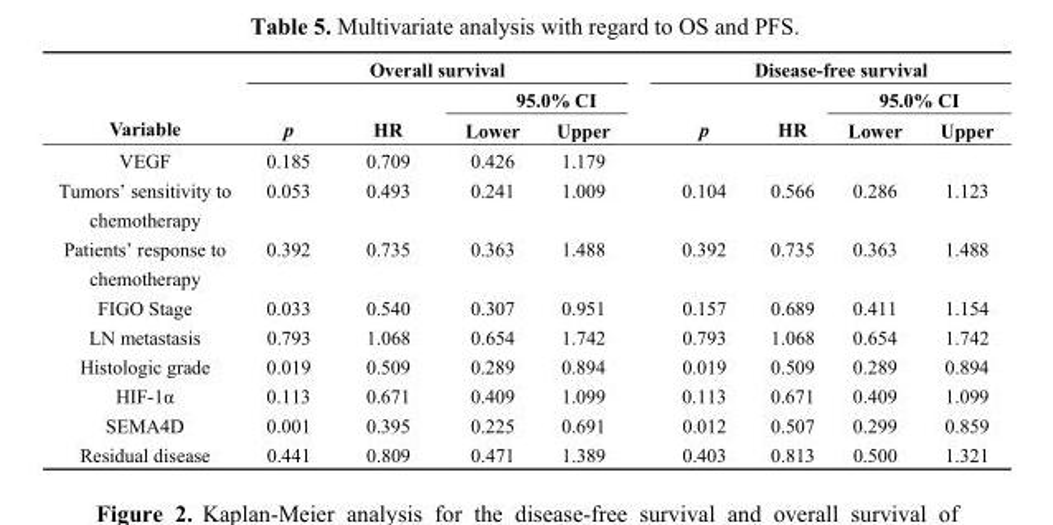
<table><thead><tr><td rowspan="3">Variable</td><td colspan="4">Overall survival</td><td colspan="4">Disease-free survival</td></tr><tr><td rowspan="2">p</td><td rowspan="2">HR</td><td colspan="2">95.0% CI</td><td rowspan="2">p</td><td rowspan="2">HR</td><td colspan="2">95.0% CI</td></tr><tr><td>Lower</td><td>Upper</td><td>Lower</td><td>Upper</td></tr></thead><tbody><tr><td>VEGF</td><td>0.185</td><td>0.709</td><td>0.426</td><td>1.179</td><td></td><td></td><td></td><td></td></tr><tr><td>Tumors’ sensitivity to chemotherapy</td><td>0.053</td><td>0.493</td><td>0.241</td><td>1.009</td><td>0.104</td><td>0.566</td><td>0.286</td><td>1.123</td></tr><tr><td>Patients’ response to chemotherapy</td><td>0.392</td><td>0.735</td><td>0.363</td><td>1.488</td><td>0.392</td><td>0.735</td><td>0.363</td><td>1.488</td></tr><tr><td>FIGO Stage</td><td>0.033</td><td>0.540</td><td>0.307</td><td>0.951</td><td>0.157</td><td>0.689</td><td>0.411</td><td>1.154</td></tr><tr><td>LN metastasis</td><td>0.793</td><td>1.068</td><td>0.654</td><td>1.742</td><td>0.793</td><td>1.068</td><td>0.654</td><td>1.742</td></tr><tr><td>Histologic grade</td><td>0.019</td><td>0.509</td><td>0.289</td><td>0.894</td><td>0.019</td><td>0.509</td><td>0.289</td><td>0.894</td></tr><tr><td>HIF-1α</td><td>0.113</td><td>0.671</td><td>0.409</td><td>1.099</td><td>0.113</td><td>0.671</td><td>0.409</td><td>1.099</td></tr><tr><td>SEMA4D</td><td>0.001</td><td>0.395</td><td>0.225</td><td>0.691</td><td>0.012</td><td>0.507</td><td>0.299</td><td>0.859</td></tr><tr><td>Residual disease</td><td>0.441</td><td>0.809</td><td>0.471</td><td>1.389</td><td>0.403</td><td>0.813</td><td>0.500</td><td>1.321</td></tr></tbody></table>